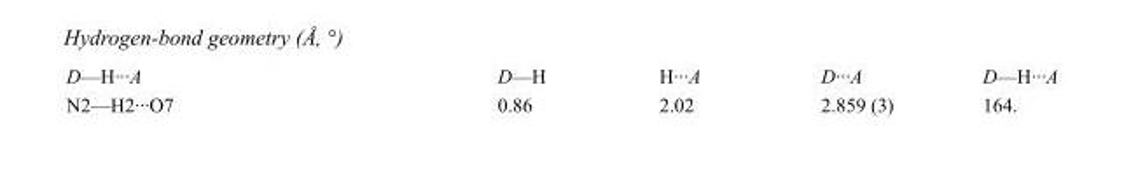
<table><tbody><tr><td>D—H···A</td><td>D—H</td><td>H···A</td><td>D···A</td><td>D—H···A</td></tr><tr><td>N2—H2···O7</td><td>0.86</td><td>2.02</td><td>2.859 (3)</td><td>164.</td></tr></tbody></table>